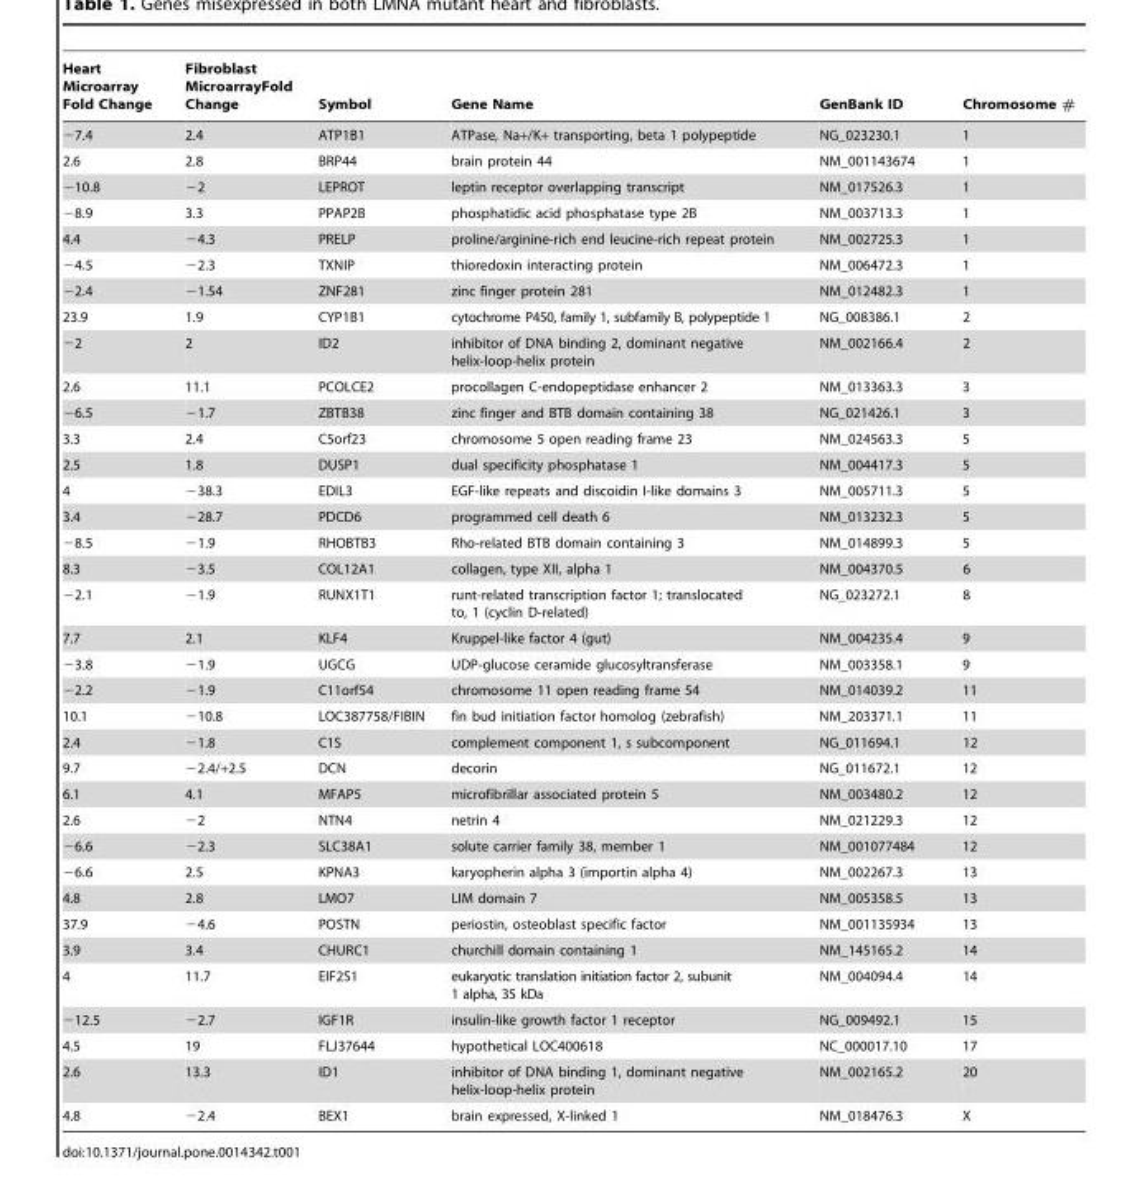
<table><thead><tr><td>Heart Microarray Fold Change</td><td>Fibroblast MicroarrayFold Change</td><td>Symbol</td><td>Gene Name</td><td>GenBank ID</td><td>Chromosome #</td></tr></thead><tbody><tr><td>−7.4</td><td>2.4</td><td>ATP1B1</td><td>ATPase, Na+/K+ transporting, beta 1 polypeptide</td><td>NG_023230.1</td><td>1</td></tr><tr><td>2.6</td><td>2.8</td><td>BRP44</td><td>brain protein 44</td><td>NM_001143674</td><td>1</td></tr><tr><td>−10.8</td><td>−2</td><td>LEPROT</td><td>leptin receptor overlapping transcript</td><td>NM_017526.3</td><td>1</td></tr><tr><td>−8.9</td><td>3.3</td><td>PPAP2B</td><td>phosphatidic acid phosphatase type 2B</td><td>NM_003713.3</td><td>1</td></tr><tr><td>4.4</td><td>−4.3</td><td>PRELP</td><td>proline/arginine-rich end leucine-rich repeat protein</td><td>NM_002725.3</td><td>1</td></tr><tr><td>−4.5</td><td>−2.3</td><td>TXNIP</td><td>thioredoxin interacting protein</td><td>NM_006472.3</td><td>1</td></tr><tr><td>−2.4</td><td>−1.54</td><td>ZNF281</td><td>zinc finger protein 281</td><td>NM_012482.3</td><td>1</td></tr><tr><td>23.9</td><td>1.9</td><td>CYP1B1</td><td>cytochrome P450, family 1, subfamily B, polypeptide 1</td><td>NG_008386.1</td><td>2</td></tr><tr><td>−2</td><td>2</td><td>ID2</td><td>inhibitor of DNA binding 2, dominant negative helix-loop-helix protein</td><td>NM_002166.4</td><td>2</td></tr><tr><td>2.6</td><td>11.1</td><td>PCOLCE2</td><td>procollagen C-endopeptidase enhancer 2</td><td>NM_013363.3</td><td>3</td></tr><tr><td>−6.5</td><td>−1.7</td><td>ZBTB38</td><td>zinc finger and BTB domain containing 38</td><td>NG_021426.1</td><td>3</td></tr><tr><td>3.3</td><td>2.4</td><td>C5orf23</td><td>chromosome 5 open reading frame 23</td><td>NM_024563.3</td><td>5</td></tr><tr><td>2.5</td><td>1.8</td><td>DUSP1</td><td>dual specificity phosphatase 1</td><td>NM_004417.3</td><td>5</td></tr><tr><td>4</td><td>−38.3</td><td>EDIL3</td><td>EGF-like repeats and discoidin I-like domains 3</td><td>NM_005711.3</td><td>5</td></tr><tr><td>3.4</td><td>−28.7</td><td>PDCD6</td><td>programmed cell death 6</td><td>NM_013232.3</td><td>5</td></tr><tr><td>−8.5</td><td>−1.9</td><td>RHOBTB3</td><td>Rho-related BTB domain containing 3</td><td>NM_014899.3</td><td>5</td></tr><tr><td>8.3</td><td>−3.5</td><td>COL12A1</td><td>collagen, type XII, alpha 1</td><td>NM_004370.5</td><td>6</td></tr><tr><td>−2.1</td><td>−1.9</td><td>RUNX1T1</td><td>runt-related transcription factor 1; translocated to, 1 (cyclin D-related)</td><td>NG_023272.1</td><td>8</td></tr><tr><td>7.7</td><td>2.1</td><td>KLF4</td><td>Kruppel-like factor 4 (gut)</td><td>NM_004235.4</td><td>9</td></tr><tr><td>−3.8</td><td>−1.9</td><td>UGCG</td><td>UDP-glucose ceramide glucosyltransferase</td><td>NM_003358.1</td><td>9</td></tr><tr><td>−2.2</td><td>−1.9</td><td>C11orf54</td><td>chromosome 11 open reading frame 54</td><td>NM_014039.2</td><td>11</td></tr><tr><td>10.1</td><td>−10.8</td><td>LOC387758/FIBIN</td><td>fin bud initiation factor homolog (zebrafish)</td><td>NM_203371.1</td><td>11</td></tr><tr><td>2.4</td><td>−1.8</td><td>C1S</td><td>complement component 1, s subcomponent</td><td>NG_011694.1</td><td>12</td></tr><tr><td>9.7</td><td>−2.4/+2.5</td><td>DCN</td><td>decorin</td><td>NG_011672.1</td><td>12</td></tr><tr><td>6.1</td><td>4.1</td><td>MFAP5</td><td>microfibrillar associated protein 5</td><td>NM_003480.2</td><td>12</td></tr><tr><td>2.6</td><td>−2</td><td>NTN4</td><td>netrin 4</td><td>NM_021229.3</td><td>12</td></tr><tr><td>−6.6</td><td>−2.3</td><td>SLC38A1</td><td>solute carrier family 38, member 1</td><td>NM_001077484</td><td>12</td></tr><tr><td>−6.6</td><td>2.5</td><td>KPNA3</td><td>karyopherin alpha 3 (importin alpha 4)</td><td>NM_002267.3</td><td>13</td></tr><tr><td>4.8</td><td>2.8</td><td>LMO7</td><td>LIM domain 7</td><td>NM_005358.5</td><td>13</td></tr><tr><td>37.9</td><td>−4.6</td><td>POSTN</td><td>periostin, osteoblast specific factor</td><td>NM_001135934</td><td>13</td></tr><tr><td>3.9</td><td>3.4</td><td>CHURC1</td><td>churchill domain containing 1</td><td>NM_145165.2</td><td>14</td></tr><tr><td>4</td><td>11.7</td><td>EIF2S1</td><td>eukaryotic translation initiation factor 2, subunit 1 alpha, 35 kDa</td><td>NM_004094.4</td><td>14</td></tr><tr><td>−12.5</td><td>−2.7</td><td>IGF1R</td><td>insulin-like growth factor 1 receptor</td><td>NG_009492.1</td><td>15</td></tr><tr><td>4.5</td><td>19</td><td>FLJ37644</td><td>hypothetical LOC400618</td><td>NC_000017.10</td><td>17</td></tr><tr><td>2.6</td><td>13.3</td><td>ID1</td><td>inhibitor of DNA binding 1, dominant negative helix-loop-helix protein</td><td>NM_002165.2</td><td>20</td></tr><tr><td>4.8</td><td>−2.4</td><td>BEX1</td><td>brain expressed, X-linked 1</td><td>NM_018476.3</td><td>X</td></tr></tbody></table>